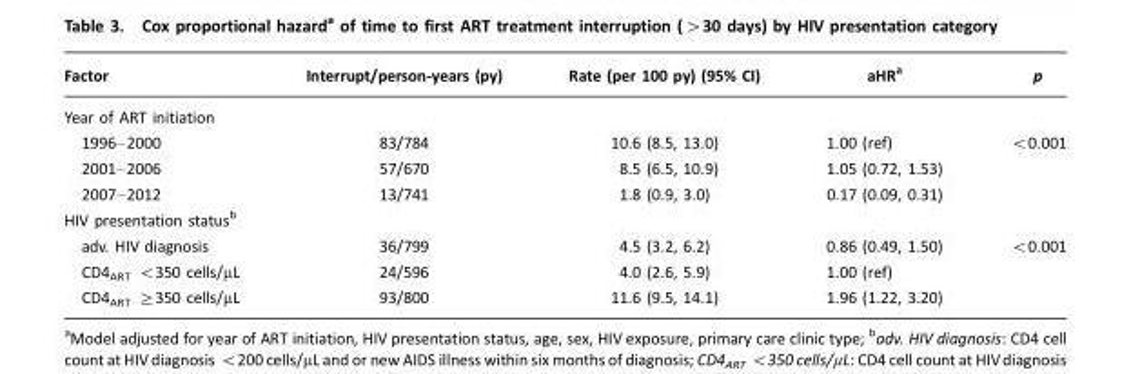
<table><thead><tr><td>Factor</td><td>Interrupt/person-years (py)</td><td>Rate (per 100 py) (95% CI)</td><td>aHR<sup>a</sup></td><td>p</td></tr></thead><tbody><tr><td colspan="5">Year of ART initiation</td></tr><tr><td>1996–2000</td><td>83/784</td><td>10.6 (8.5, 13.0)</td><td>1.00 (ref)</td><td>&lt;0.001</td></tr><tr><td>2001–2006</td><td>57/670</td><td>8.5 (6.5, 10.9)</td><td>1.05 (0.72, 1.53)</td><td></td></tr><tr><td>2007–2012</td><td>13/741</td><td>1.8 (0.9, 3.0)</td><td>0.17 (0.09, 0.31)</td><td></td></tr><tr><td colspan="5">HIV presentation status<sup>b</sup></td></tr><tr><td>adv. HIV diagnosis</td><td>36/799</td><td>4.5 (3.2, 6.2)</td><td>0.86 (0.49, 1.50)</td><td>&lt;0.001</td></tr><tr><td>CD4<sub>ART</sub> &lt;350 cells/µL</td><td>24/596</td><td>4.0 (2.6, 5.9)</td><td>1.00 (ref)</td><td></td></tr><tr><td>CD4<sub>ART</sub> ≥350 cells/µL</td><td>93/800</td><td>11.6 (9.5, 14.1)</td><td>1.96 (1.22, 3.20)</td><td></td></tr></tbody></table>